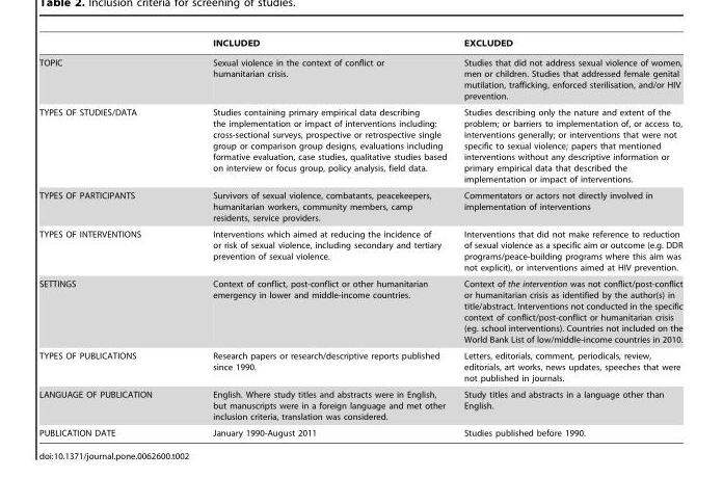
<table><thead><tr><td></td><td>INCLUDED</td><td>EXCLUDED</td></tr></thead><tbody><tr><td>TOPIC</td><td>Sexual violence in the context of conflict or humanitarian crisis.</td><td>Studies that did not address sexual violence of women, men or children. Studies that addressed female genital mutilation, trafficking, enforced sterilisation, and/or HIV prevention.</td></tr><tr><td>TYPES OF STUDIES/DATA</td><td>Studies containing primary empirical data describing the implementation or impact of interventions including: cross-sectional surveys, prospective or retrospective single group or comparison group designs, evaluations including formative evaluation, case studies, qualitative studies based on interview or focus group, policy analysis, field data.</td><td>Studies describing only the nature and extent of the problem; or barriers to implementation of, or access to, interventions generally; or interventions that were not specific to sexual violence; papers that mentioned interventions without any descriptive information or primary empirical data that described the implementation or impact of interventions.</td></tr><tr><td>TYPES OF PARTICIPANTS</td><td>Survivors of sexual violence, combatants, peacekeepers, humanitarian workers, community members, camp residents, service providers.</td><td>Commentators or actors not directly involved in implementation of interventions</td></tr><tr><td>TYPES OF INTERVENTIONS</td><td>Interventions which aimed at reducing the incidence of or risk of sexual violence, including secondary and tertiary prevention of sexual violence.</td><td>Interventions that did not make reference to reduction of sexual violence as a specific aim or outcome (e.g. DDR programs/peace-building programs where this aim was not explicit), or interventions aimed at HIV prevention.</td></tr><tr><td>SETTINGS</td><td>Context of conflict, post-conflict or other humanitarian emergency in lower and middle-income countries.</td><td>Context of the intervention was not conflict/post-conflict or humanitarian crisis as identified by the author(s) in title/abstract. Interventions not conducted in the specific context of conflict/post-conflict or humanitarian crisis (eg. school interventions). Countries not included on the World Bank List of low/middle-income countries in 2010.</td></tr><tr><td>TYPES OF PUBLICATIONS</td><td>Research papers or research/descriptive reports published since 1990.</td><td>Letters, editorials, comment, periodicals, review, editorials, art works, news updates, speeches that were not published in journals.</td></tr><tr><td>LANGUAGE OF PUBLICATION</td><td>English. Where study titles and abstracts were in English, but manuscripts were in a foreign language and met other inclusion criteria, translation was considered.</td><td>Study titles and abstracts in a language other than English.</td></tr><tr><td>PUBLICATION DATE</td><td>January 1990-August 2011</td><td>Studies published before 1990.</td></tr></tbody></table>